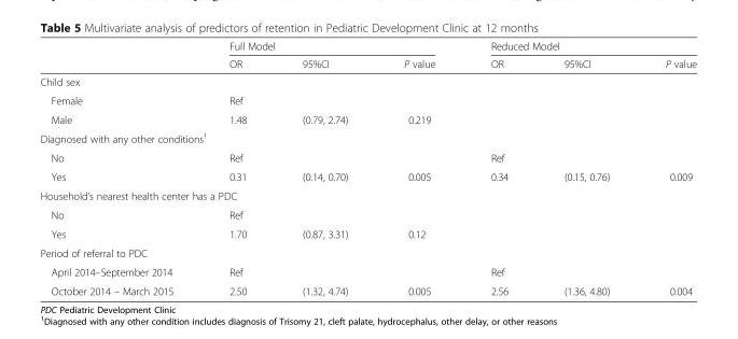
<table><thead><tr><td rowspan="2"></td><td colspan="3">Full Model</td><td colspan="3">Reduced Model</td></tr><tr><td>OR</td><td>95%CI</td><td>P value</td><td>OR</td><td>95%CI</td><td>P value</td></tr></thead><tbody><tr><td colspan="7">Child sex</td></tr><tr><td>Female</td><td>Ref</td><td></td><td></td><td></td><td></td><td></td></tr><tr><td>Male</td><td>1.48</td><td>(0.79, 2.74)</td><td>0.219</td><td></td><td></td><td></td></tr><tr><td colspan="7">Diagnosed with any other conditions<sup>1</sup></td></tr><tr><td>No</td><td>Ref</td><td></td><td></td><td>Ref</td><td></td><td></td></tr><tr><td>Yes</td><td>0.31</td><td>(0.14, 0.70)</td><td>0.005</td><td>0.34</td><td>(0.15, 0.76)</td><td>0.009</td></tr><tr><td colspan="7">Household’s nearest health center has a PDC</td></tr><tr><td>No</td><td>Ref</td><td></td><td></td><td></td><td></td><td></td></tr><tr><td>Yes</td><td>1.70</td><td>(0.87, 3.31)</td><td>0.12</td><td></td><td></td><td></td></tr><tr><td colspan="7">Period of referral to PDC</td></tr><tr><td>April 2014–September 2014</td><td>Ref</td><td></td><td></td><td>Ref</td><td></td><td></td></tr><tr><td>October 2014 – March 2015</td><td>2.50</td><td>(1.32, 4.74)</td><td>0.005</td><td>2.56</td><td>(1.36, 4.80)</td><td>0.004</td></tr></tbody></table>